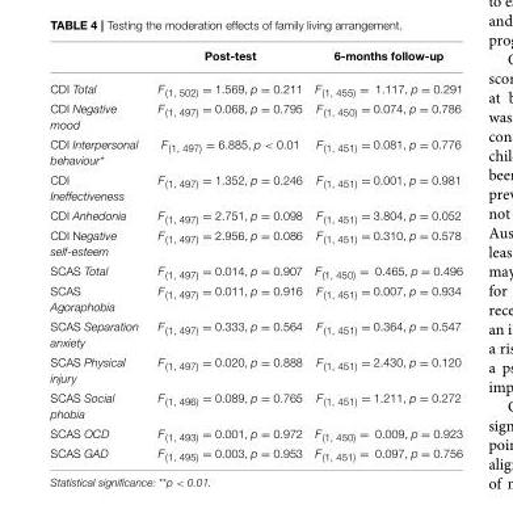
<table><thead><tr><td></td><td>Post-test</td><td>6-months follow-up</td></tr></thead><tbody><tr><td>CDI Total</td><td>F<sub>(1, 502)</sub> = 1.569, p = 0.211</td><td>F<sub>(1, 455)</sub> = 1.117, p = 0.291</td></tr><tr><td>CDI Negative mood</td><td>F<sub>(1, 497)</sub> = 0.068, p = 0.795</td><td>F<sub>(1, 450)</sub> = 0.074, p = 0.786</td></tr><tr><td>CDI Interpersonal behaviour*</td><td>F<sub>(1, 497)</sub> = 6.885, p &lt; 0.01</td><td>F<sub>(1, 451)</sub> = 0.081, p = 0.776</td></tr><tr><td>CDI Ineffectiveness</td><td>F<sub>(1, 497)</sub> = 1.352, p = 0.246</td><td>F<sub>(1, 451)</sub> = 0.001, p = 0.981</td></tr><tr><td>CDI Anhedonia</td><td>F<sub>(1, 497)</sub> = 2.751, p = 0.098</td><td>F<sub>(1, 451)</sub> = 3.804, p = 0.052</td></tr><tr><td>CDI Negative self-esteem</td><td>F<sub>(1, 497)</sub> = 2.956, p = 0.086</td><td>F<sub>(1, 451)</sub> = 0.310, p = 0.578</td></tr><tr><td>SCAS Total</td><td>F<sub>(1, 497)</sub> = 0.014, p = 0.907</td><td>F<sub>(1, 450)</sub> = 0.465, p = 0.496</td></tr><tr><td>SCAS Agoraphobia</td><td>F<sub>(1, 497)</sub> = 0.011, p = 0.916</td><td>F<sub>(1, 451)</sub> = 0.007, p = 0.934</td></tr><tr><td>SCAS Separation anxiety</td><td>F<sub>(1, 497)</sub> = 0.333, p = 0.564</td><td>F<sub>(1, 451)</sub> = 0.364, p = 0.547</td></tr><tr><td>SCAS Physical injury</td><td>F<sub>(1, 497)</sub> = 0.020, p = 0.888</td><td>F<sub>(1, 451)</sub> = 2.430, p = 0.120</td></tr><tr><td>SCAS Social phobia</td><td>F<sub>(1, 496)</sub> = 0.089, p = 0.765</td><td>F<sub>(1, 451)</sub> = 1.211, p = 0.272</td></tr><tr><td>SCAS OCD</td><td>F<sub>(1, 493)</sub> = 0.001, p = 0.972</td><td>F<sub>(1, 450)</sub> = 0.009, p = 0.923</td></tr><tr><td>SCAS GAD</td><td>F<sub>(1, 495)</sub> = 0.003, p = 0.953</td><td>F<sub>(1, 451)</sub> = 0.097, p = 0.756</td></tr></tbody></table>